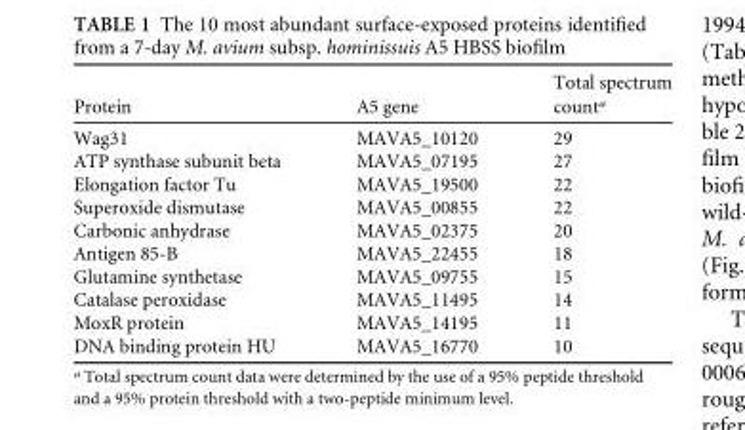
<table><thead><tr><td>Protein</td><td>A5 gene</td><td>Total spectrum count<sup>a</sup></td></tr></thead><tbody><tr><td>Wag31</td><td>MAVA5_10120</td><td>29</td></tr><tr><td>ATP synthase subunit beta</td><td>MAVA5_07195</td><td>27</td></tr><tr><td>Elongation factor Tu</td><td>MAVA5_19500</td><td>22</td></tr><tr><td>Superoxide dismutase</td><td>MAVA5_00855</td><td>22</td></tr><tr><td>Carbonic anhydrase</td><td>MAVA5_02375</td><td>20</td></tr><tr><td>Antigen 85-B</td><td>MAVA5_22455</td><td>18</td></tr><tr><td>Glutamine synthetase</td><td>MAVA5_09755</td><td>15</td></tr><tr><td>Catalase peroxidase</td><td>MAVA5_11495</td><td>14</td></tr><tr><td>MoxR protein</td><td>MAVA5_14195</td><td>11</td></tr><tr><td>DNA binding protein HU</td><td>MAVA5_16770</td><td>10</td></tr></tbody></table>